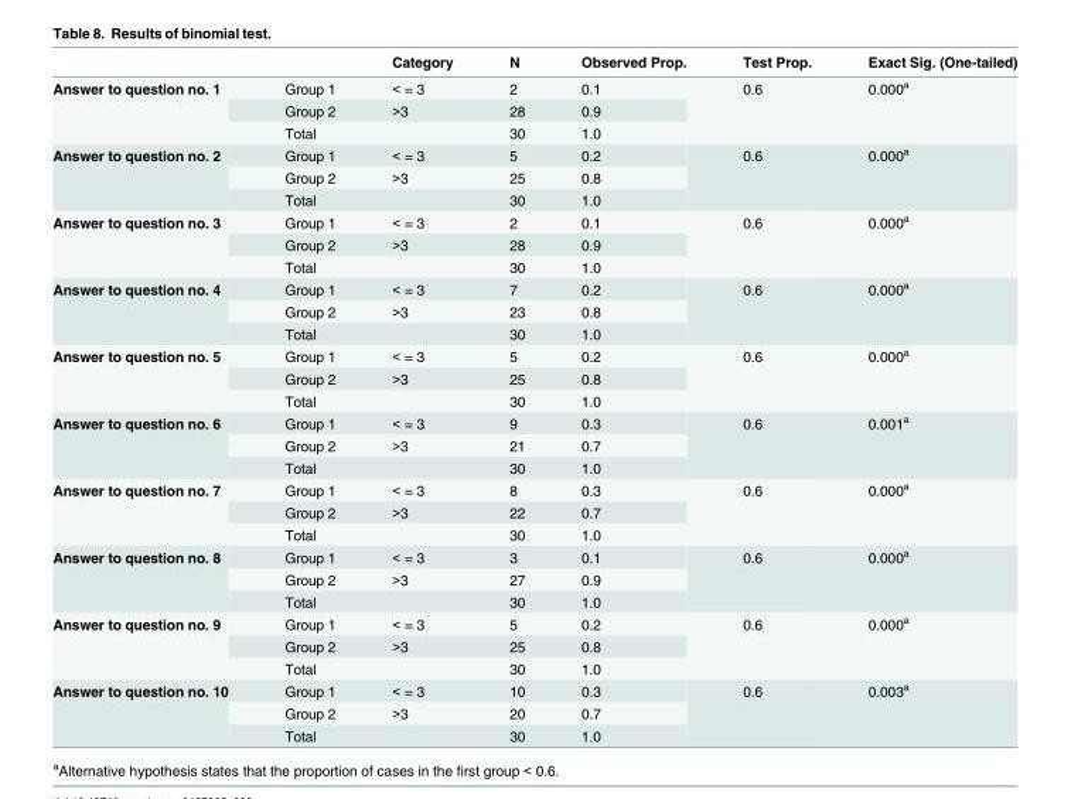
<table><thead><tr><td></td><td></td><td>Category</td><td>N</td><td>Observed Prop.</td><td>Test Prop.</td><td>Exact Sig. (One-tailed)</td></tr></thead><tbody><tr><td rowspan="3">Answer to question no. 1</td><td>Group 1</td><td>&lt; = 3</td><td>2</td><td>0.1</td><td rowspan="3">0.6</td><td rowspan="3">0.000<sup>a</sup></td></tr><tr><td>Group 2</td><td>&gt;3</td><td>28</td><td>0.9</td></tr><tr><td>Total</td><td></td><td>30</td><td>1.0</td></tr><tr><td rowspan="3">Answer to question no. 2</td><td>Group 1</td><td>&lt; = 3</td><td>5</td><td>0.2</td><td rowspan="3">0.6</td><td rowspan="3">0.000<sup>a</sup></td></tr><tr><td>Group 2</td><td>&gt;3</td><td>25</td><td>0.8</td></tr><tr><td>Total</td><td></td><td>30</td><td>1.0</td></tr><tr><td rowspan="3">Answer to question no. 3</td><td>Group 1</td><td>&lt; = 3</td><td>2</td><td>0.1</td><td rowspan="3">0.6</td><td rowspan="3">0.000<sup>a</sup></td></tr><tr><td>Group 2</td><td>&gt;3</td><td>28</td><td>0.9</td></tr><tr><td>Total</td><td></td><td>30</td><td>1.0</td></tr><tr><td rowspan="3">Answer to question no. 4</td><td>Group 1</td><td>&lt; = 3</td><td>7</td><td>0.2</td><td rowspan="3">0.6</td><td rowspan="3">0.000<sup>a</sup></td></tr><tr><td>Group 2</td><td>&gt;3</td><td>23</td><td>0.8</td></tr><tr><td>Total</td><td></td><td>30</td><td>1.0</td></tr><tr><td rowspan="3">Answer to question no. 5</td><td>Group 1</td><td>&lt; = 3</td><td>5</td><td>0.2</td><td rowspan="3">0.6</td><td rowspan="3">0.000<sup>a</sup></td></tr><tr><td>Group 2</td><td>&gt;3</td><td>25</td><td>0.8</td></tr><tr><td>Total</td><td></td><td>30</td><td>1.0</td></tr><tr><td rowspan="3">Answer to question no. 6</td><td>Group 1</td><td>&lt; = 3</td><td>9</td><td>0.3</td><td rowspan="3">0.6</td><td rowspan="3">0.001<sup>a</sup></td></tr><tr><td>Group 2</td><td>&gt;3</td><td>21</td><td>0.7</td></tr><tr><td>Total</td><td></td><td>30</td><td>1.0</td></tr><tr><td rowspan="3">Answer to question no. 7</td><td>Group 1</td><td>&lt; = 3</td><td>8</td><td>0.3</td><td rowspan="3">0.6</td><td rowspan="3">0.000<sup>a</sup></td></tr><tr><td>Group 2</td><td>&gt;3</td><td>22</td><td>0.7</td></tr><tr><td>Total</td><td></td><td>30</td><td>1.0</td></tr><tr><td rowspan="3">Answer to question no. 8</td><td>Group 1</td><td>&lt; = 3</td><td>3</td><td>0.1</td><td rowspan="3">0.6</td><td rowspan="3">0.000<sup>a</sup></td></tr><tr><td>Group 2</td><td>&gt;3</td><td>27</td><td>0.9</td></tr><tr><td>Total</td><td></td><td>30</td><td>1.0</td></tr><tr><td rowspan="3">Answer to question no. 9</td><td>Group 1</td><td>&lt; = 3</td><td>5</td><td>0.2</td><td rowspan="3">0.6</td><td rowspan="3">0.000<sup>a</sup></td></tr><tr><td>Group 2</td><td>&gt;3</td><td>25</td><td>0.8</td></tr><tr><td>Total</td><td></td><td>30</td><td>1.0</td></tr><tr><td rowspan="3">Answer to question no. 10</td><td>Group 1</td><td>&lt; = 3</td><td>10</td><td>0.3</td><td rowspan="3">0.6</td><td rowspan="3">0.003<sup>a</sup></td></tr><tr><td>Group 2</td><td>&gt;3</td><td>20</td><td>0.7</td></tr><tr><td>Total</td><td></td><td>30</td><td>1.0</td></tr></tbody></table>